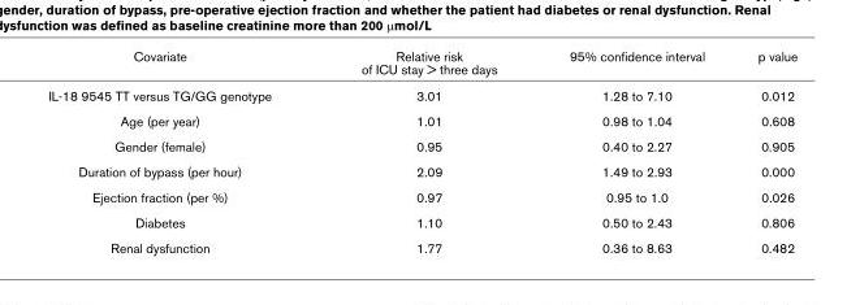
<table><thead><tr><td>Covariate</td><td>Relative risk of ICU stay &gt; three days</td><td>95% confidence interval</td><td>p value</td></tr></thead><tbody><tr><td>IL-18 9545 TT versus TG/GG genotype</td><td>3.01</td><td>1.28 to 7.10</td><td>0.012</td></tr><tr><td>Age (per year)</td><td>1.01</td><td>0.98 to 1.04</td><td>0.608</td></tr><tr><td>Gender (female)</td><td>0.95</td><td>0.40 to 2.27</td><td>0.905</td></tr><tr><td>Duration of bypass (per hour)</td><td>2.09</td><td>1.49 to 2.93</td><td>0.000</td></tr><tr><td>Ejection fraction (per %)</td><td>0.97</td><td>0.95 to 1.0</td><td>0.026</td></tr><tr><td>Diabetes</td><td>1.10</td><td>0.50 to 2.43</td><td>0.806</td></tr><tr><td>Renal dysfunction</td><td>1.77</td><td>0.36 to 8.63</td><td>0.482</td></tr></tbody></table>